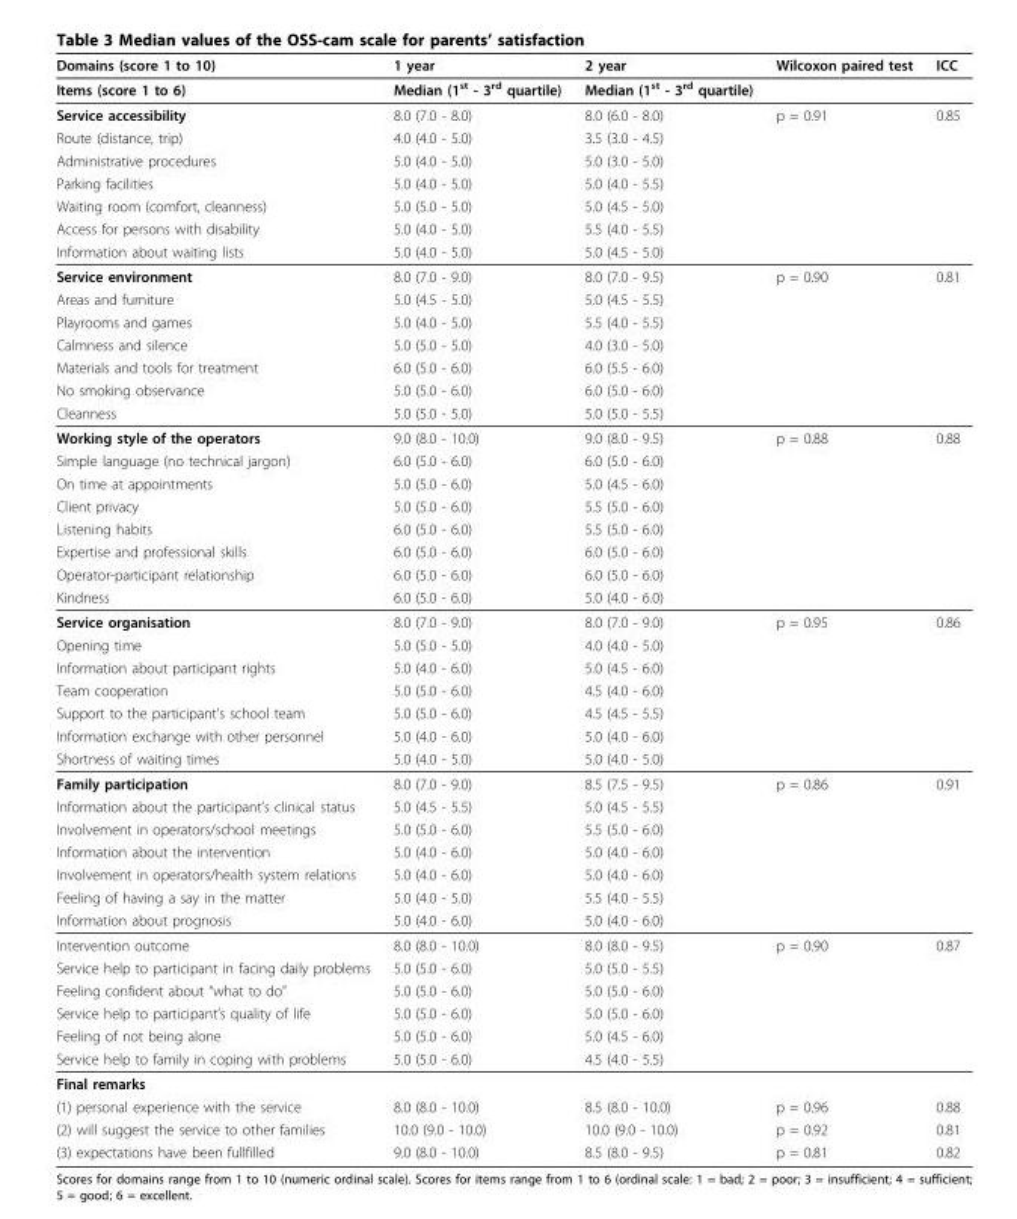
<table><thead><tr><td>Domains (score 1 to 10)</td><td>1 year</td><td>2 year</td><td>Wilcoxon paired test</td><td>ICC</td></tr></thead><tbody><tr><td>Items (score 1 to 6)</td><td>Median (1<sup>st</sup> - 3<sup>rd</sup> quartile)</td><td>Median (1<sup>st</sup> - 3<sup>rd</sup> quartile)</td><td></td><td></td></tr><tr><td>Service accessibility</td><td>8.0 (7.0 - 8.0)</td><td>8.0 (6.0 - 8.0)</td><td>p = 0.91</td><td>0.85</td></tr><tr><td>Route (distance, trip)</td><td>4.0 (4.0 - 5.0)</td><td>3.5 (3.0 - 4.5)</td><td></td><td></td></tr><tr><td>Administrative procedures</td><td>5.0 (4.0 - 5.0)</td><td>5.0 (3.0 - 5.0)</td><td></td><td></td></tr><tr><td>Parking facilities</td><td>5.0 (4.0 - 5.0)</td><td>5.0 (4.0 - 5.5)</td><td></td><td></td></tr><tr><td>Waiting room (comfort, cleanness)</td><td>5.0 (5.0 - 5.0)</td><td>5.0 (4.5 - 5.0)</td><td></td><td></td></tr><tr><td>Access for persons with disability</td><td>5.0 (4.0 - 5.0)</td><td>5.5 (4.0 - 5.5)</td><td></td><td></td></tr><tr><td>Information about waiting lists</td><td>5.0 (4.0 - 5.0)</td><td>5.0 (4.5 - 5.0)</td><td></td><td></td></tr><tr><td>Service environment</td><td>8.0 (7.0 - 9.0)</td><td>8.0 (7.0 - 9.5)</td><td>p = 0.90</td><td>0.81</td></tr><tr><td>Areas and furniture</td><td>5.0 (4.5 - 5.0)</td><td>5.0 (4.5 - 5.5)</td><td></td><td></td></tr><tr><td>Playrooms and games</td><td>5.0 (4.0 - 5.0)</td><td>5.5 (4.0 - 5.5)</td><td></td><td></td></tr><tr><td>Calmness and silence</td><td>5.0 (5.0 - 5.0)</td><td>4.0 (3.0 - 5.0)</td><td></td><td></td></tr><tr><td>Materials and tools for treatment</td><td>6.0 (5.0 - 6.0)</td><td>6.0 (5.5 - 6.0)</td><td></td><td></td></tr><tr><td>No smoking observance</td><td>5.0 (5.0 - 6.0)</td><td>6.0 (5.0 - 6.0)</td><td></td><td></td></tr><tr><td>Cleanness</td><td>5.0 (5.0 - 5.0)</td><td>5.0 (5.0 - 5.5)</td><td></td><td></td></tr><tr><td>Working style of the operators</td><td>9.0 (8.0 - 10.0)</td><td>9.0 (8.0 - 9.5)</td><td>p = 0.88</td><td>0.88</td></tr><tr><td>Simple language (no technical jargon)</td><td>6.0 (5.0 - 6.0)</td><td>6.0 (5.0 - 6.0)</td><td></td><td></td></tr><tr><td>On time at appointments</td><td>5.0 (5.0 - 6.0)</td><td>5.0 (4.5 - 6.0)</td><td></td><td></td></tr><tr><td>Client privacy</td><td>5.0 (5.0 - 6.0)</td><td>5.5 (5.0 - 6.0)</td><td></td><td></td></tr><tr><td>Listening habits</td><td>6.0 (5.0 - 6.0)</td><td>5.5 (5.0 - 6.0)</td><td></td><td></td></tr><tr><td>Expertise and professional skills</td><td>6.0 (5.0 - 6.0)</td><td>6.0 (5.0 - 6.0)</td><td></td><td></td></tr><tr><td>Operator-participant relationship</td><td>6.0 (5.0 - 6.0)</td><td>6.0 (5.0 - 6.0)</td><td></td><td></td></tr><tr><td>Kindness</td><td>6.0 (5.0 - 6.0)</td><td>5.0 (4.0 - 6.0)</td><td></td><td></td></tr><tr><td>Service organisation</td><td>8.0 (7.0 - 9.0)</td><td>8.0 (7.0 - 9.0)</td><td>p = 0.95</td><td>0.86</td></tr><tr><td>Opening time</td><td>5.0 (5.0 - 5.0)</td><td>4.0 (4.0 - 5.0)</td><td></td><td></td></tr><tr><td>Information about participant rights</td><td>5.0 (4.0 - 6.0)</td><td>5.0 (4.5 - 6.0)</td><td></td><td></td></tr><tr><td>Team cooperation</td><td>5.0 (5.0 - 6.0)</td><td>4.5 (4.0 - 6.0)</td><td></td><td></td></tr><tr><td>Support to the participant’s school team</td><td>5.0 (5.0 - 6.0)</td><td>4.5 (4.5 - 5.5)</td><td></td><td></td></tr><tr><td>Information exchange with other personnel</td><td>5.0 (4.0 - 6.0)</td><td>5.0 (4.0 - 6.0)</td><td></td><td></td></tr><tr><td>Shortness of waiting times</td><td>5.0 (4.0 - 5.0)</td><td>5.0 (4.0 - 5.0)</td><td></td><td></td></tr><tr><td>Family participation</td><td>8.0 (7.0 - 9.0)</td><td>8.5 (7.5 - 9.5)</td><td>p = 0.86</td><td>0.91</td></tr><tr><td>Information about the participant’s clinical status</td><td>5.0 (4.5 - 5.5)</td><td>5.0 (4.5 - 5.5)</td><td></td><td></td></tr><tr><td>Involvement in operators/school meetings</td><td>5.0 (5.0 - 6.0)</td><td>5.5 (5.0 - 6.0)</td><td></td><td></td></tr><tr><td>Information about the intervention</td><td>5.0 (4.0 - 6.0)</td><td>5.0 (4.0 - 6.0)</td><td></td><td></td></tr><tr><td>Involvement in operators/health system relations</td><td>5.0 (4.0 - 6.0)</td><td>5.0 (4.0 - 6.0)</td><td></td><td></td></tr><tr><td>Feeling of having a say in the matter</td><td>5.0 (4.0 - 5.0)</td><td>5.5 (4.0 - 5.5)</td><td></td><td></td></tr><tr><td>Information about prognosis</td><td>5.0 (4.0 - 6.0)</td><td>5.0 (4.0 - 6.0)</td><td></td><td></td></tr><tr><td>Intervention outcome</td><td>8.0 (8.0 - 10.0)</td><td>8.0 (8.0 - 9.5)</td><td>p = 0.90</td><td>0.87</td></tr><tr><td>Service help to participant in facing daily problems</td><td>5.0 (5.0 - 6.0)</td><td>5.0 (5.0 - 5.5)</td><td></td><td></td></tr><tr><td>Feeling confident about “what to do”</td><td>5.0 (5.0 - 6.0)</td><td>5.0 (5.0 - 6.0)</td><td></td><td></td></tr><tr><td>Service help to participant’s quality of life</td><td>5.0 (5.0 - 6.0)</td><td>5.0 (5.0 - 6.0)</td><td></td><td></td></tr><tr><td>Feeling of not being alone</td><td>5.0 (5.0 - 6.0)</td><td>5.0 (4.5 - 6.0)</td><td></td><td></td></tr><tr><td>Service help to family in coping with problems</td><td>5.0 (5.0 - 6.0)</td><td>4.5 (4.0 - 5.5)</td><td></td><td></td></tr><tr><td colspan="5">Final remarks</td></tr><tr><td>(1) personal experience with the service</td><td>8.0 (8.0 - 10.0)</td><td>8.5 (8.0 - 10.0)</td><td>p = 0.96</td><td>0.88</td></tr><tr><td>(2) will suggest the service to other families</td><td>10.0 (9.0 - 10.0)</td><td>10.0 (9.0 - 10.0)</td><td>p = 0.92</td><td>0.81</td></tr><tr><td>(3) expectations have been fullfilled</td><td>9.0 (8.0 - 10.0)</td><td>8.5 (8.0 - 9.5)</td><td>p = 0.81</td><td>0.82</td></tr></tbody></table>